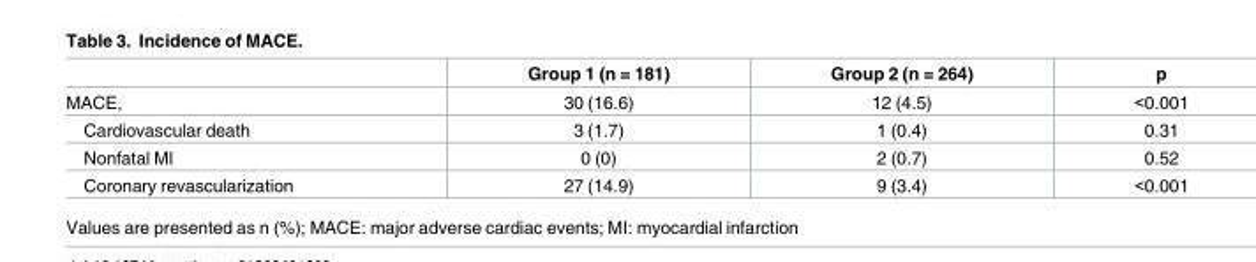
<table><thead><tr><td></td><td>Group 1 (n = 181)</td><td>Group 2 (n = 264)</td><td>p</td></tr></thead><tbody><tr><td>MACE,</td><td>30 (16.6)</td><td>12 (4.5)</td><td>&lt;0.001</td></tr><tr><td>Cardiovascular death</td><td>3 (1.7)</td><td>1 (0.4)</td><td>0.31</td></tr><tr><td>Nonfatal MI</td><td>0 (0)</td><td>2 (0.7)</td><td>0.52</td></tr><tr><td>Coronary revascularization</td><td>27 (14.9)</td><td>9 (3.4)</td><td>&lt;0.001</td></tr></tbody></table>